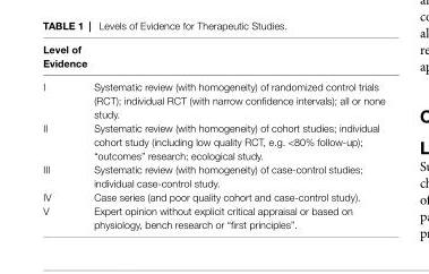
<table><thead><tr><td>level of evidence</td><td></td></tr></thead><tbody><tr><td>I</td><td>Systematic review (with homogeneity) of randomized control trials (RCT); individual RCT (with narrow confidence intervals); all or none study.</td></tr><tr><td>II</td><td>Systematic review (with homogeneity) of cohort studies; individual cohort study (including low quality RCT, e.g. &lt;80% follow-up); “outcomes” research; ecological study.</td></tr><tr><td>III</td><td>Systematic review (with homogeneity) of case-control studies; individual case-control study.</td></tr><tr><td>IV</td><td>Case series (and poor quality cohort and case-control study).</td></tr><tr><td>V</td><td>Expert opinion without explicit critical appraisal or based on physiology, bench research or “first principles”.</td></tr></tbody></table>